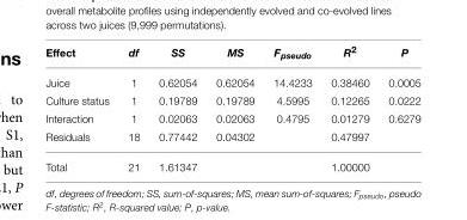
<table><thead><tr><td>Effect</td><td>df</td><td>SS</td><td>MS</td><td>F<sub>pseudo</sub></td><td>R<sup>2</sup></td><td>P</td></tr></thead><tbody><tr><td>Juice</td><td>1</td><td>0.62054</td><td>0.62054</td><td>14.4233</td><td>0.38460</td><td>0.0005</td></tr><tr><td>Culture status</td><td>1</td><td>0.19789</td><td>0.19789</td><td>4.5995</td><td>0.12265</td><td>0.0222</td></tr><tr><td>Interaction</td><td>1</td><td>0.02063</td><td>0.02063</td><td>0.4795</td><td>0.01279</td><td>0.6279</td></tr><tr><td>Residuals</td><td>18</td><td>0.77442</td><td>0.04302</td><td></td><td>0.47997</td><td></td></tr><tr><td>Total</td><td>21</td><td>1.61347</td><td></td><td></td><td>1.00000</td><td></td></tr></tbody></table>